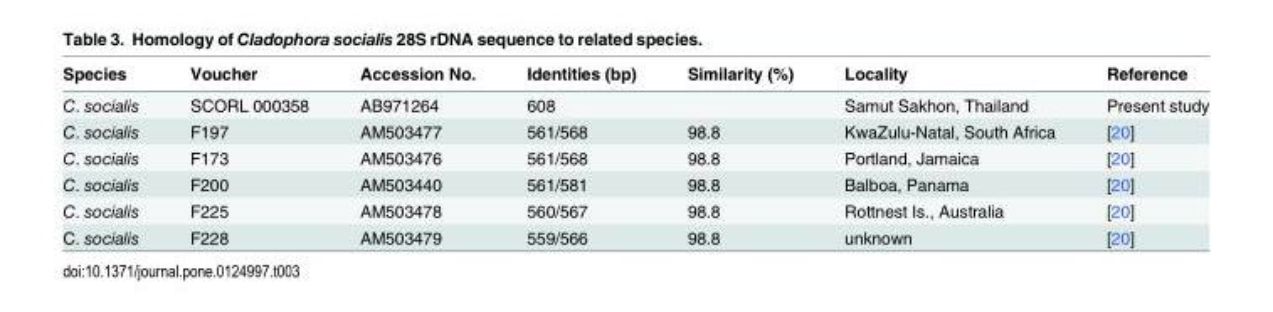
<table><thead><tr><td>Species</td><td>Voucher</td><td>Accession No.</td><td>Identities (bp)</td><td>Similarity (%)</td><td>Locality</td><td>Reference</td></tr></thead><tbody><tr><td>C. socialis</td><td>SCORL 000358</td><td>AB971264</td><td>608</td><td></td><td>Samut Sakhon, Thailand</td><td>Present study</td></tr><tr><td>C. socialis</td><td>F197</td><td>AM503477</td><td>561/568</td><td>98.8</td><td>KwaZulu-Natal, South Africa</td><td>[20]</td></tr><tr><td>C. socialis</td><td>F173</td><td>AM503476</td><td>561/568</td><td>98.8</td><td>Portland, Jamaica</td><td>[20]</td></tr><tr><td>C. socialis</td><td>F200</td><td>AM503440</td><td>561/581</td><td>98.8</td><td>Balboa, Panama</td><td>[20]</td></tr><tr><td>C. socialis</td><td>F225</td><td>AM503478</td><td>560/567</td><td>98.8</td><td>Rottnest Is., Australia</td><td>[20]</td></tr><tr><td>C. socialis</td><td>F228</td><td>AM503479</td><td>559/566</td><td>98.8</td><td>unknown</td><td>[20]</td></tr></tbody></table>